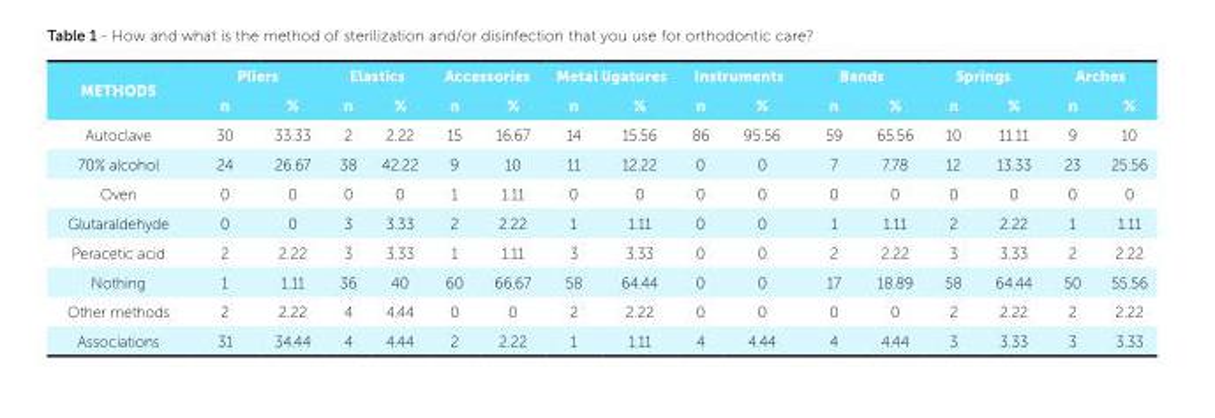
<table><tbody><tr><td rowspan="2">METHODS</td><td colspan="2">Pliers</td><td colspan="2">Elastics</td><td colspan="2">Accessories</td><td colspan="2">Metal ligatures</td><td colspan="2">Instruments</td><td colspan="2">Bands</td><td colspan="2">Springs</td><td colspan="2">Arches</td></tr><tr><td>n</td><td>%</td><td>n</td><td>%</td><td>n</td><td>%</td><td>n</td><td>%</td><td>n</td><td>%</td><td>n</td><td>%</td><td>n</td><td>%</td><td>n</td><td>%</td></tr><tr><td>Autoclave</td><td>30</td><td>33.33</td><td>2</td><td>2.22</td><td>15</td><td>16.67</td><td>14</td><td>15.56</td><td>86</td><td>95.56</td><td>59</td><td>65.56</td><td>10</td><td>11.11</td><td>9</td><td>10</td></tr><tr><td>70% alcohol</td><td>24</td><td>26.67</td><td>38</td><td>42.22</td><td>9</td><td>10</td><td>11</td><td>12.22</td><td>0</td><td>0</td><td>7</td><td>7.78</td><td>12</td><td>13.33</td><td>23</td><td>25.56</td></tr><tr><td>Oven</td><td>0</td><td>0</td><td>0</td><td>0</td><td>1</td><td>1.11</td><td>0</td><td>0</td><td>0</td><td>0</td><td>0</td><td>0</td><td>0</td><td>0</td><td>0</td><td>0</td></tr><tr><td>Glutaraldehyde</td><td>0</td><td>0</td><td>3</td><td>3.33</td><td>2</td><td>2.22</td><td>1</td><td>1.11</td><td>0</td><td>0</td><td>1</td><td>1.11</td><td>2</td><td>2.22</td><td>1</td><td>1.11</td></tr><tr><td>Peracetic acid</td><td>2</td><td>2.22</td><td>3</td><td>3.33</td><td>1</td><td>1.11</td><td>3</td><td>3.33</td><td>0</td><td>0</td><td>2</td><td>2.22</td><td>3</td><td>3.33</td><td>2</td><td>2.22</td></tr><tr><td>Nothing</td><td>1</td><td>1.11</td><td>36</td><td>40</td><td>60</td><td>66.67</td><td>58</td><td>64.44</td><td>0</td><td>0</td><td>17</td><td>18.89</td><td>58</td><td>64.44</td><td>50</td><td>55.56</td></tr><tr><td>Other methods</td><td>2</td><td>2.22</td><td>4</td><td>4.44</td><td>0</td><td>0</td><td>2</td><td>2.22</td><td>0</td><td>0</td><td>0</td><td>0</td><td>2</td><td>2.22</td><td>2</td><td>2.22</td></tr><tr><td>Associations</td><td>31</td><td>34.44</td><td>4</td><td>4.44</td><td>2</td><td>2.22</td><td>1</td><td>1.11</td><td>4</td><td>4.44</td><td>4</td><td>4.44</td><td>3</td><td>3.33</td><td>3</td><td>3.33</td></tr></tbody></table>